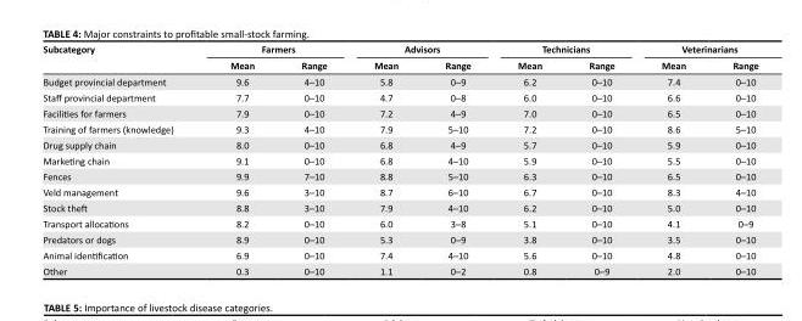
<table><thead><tr><td rowspan="2">Subcategory</td><td colspan="2">Farmers</td><td colspan="2">Advisors</td><td colspan="2">Technicians</td><td colspan="2">Veterinarians</td></tr><tr><td>Mean</td><td>Range</td><td>Mean</td><td>Range</td><td>Mean</td><td>Range</td><td>Mean</td><td>Range</td></tr></thead><tbody><tr><td>Budget provincial department</td><td>9.6</td><td>4–10</td><td>5.8</td><td>0–9</td><td>6.2</td><td>0–10</td><td>7.4</td><td>0–10</td></tr><tr><td>Staff provincial department</td><td>7.7</td><td>0–10</td><td>4.7</td><td>0–8</td><td>6.0</td><td>0–10</td><td>6.6</td><td>0–10</td></tr><tr><td>Facilities for farmers</td><td>7.9</td><td>0–10</td><td>7.2</td><td>4–9</td><td>7.0</td><td>0–10</td><td>6.5</td><td>0–10</td></tr><tr><td>Training of farmers (knowledge)</td><td>9.3</td><td>4–10</td><td>7.9</td><td>5–10</td><td>7.2</td><td>0–10</td><td>8.6</td><td>5–10</td></tr><tr><td>Drug supply chain</td><td>8.0</td><td>0–10</td><td>6.8</td><td>4–9</td><td>5.7</td><td>0–10</td><td>5.9</td><td>0–10</td></tr><tr><td>Marketing chain</td><td>9.1</td><td>0–10</td><td>6.8</td><td>4–10</td><td>5.9</td><td>0–10</td><td>5.5</td><td>0–10</td></tr><tr><td>Fences</td><td>9.9</td><td>7–10</td><td>8.8</td><td>5–10</td><td>6.3</td><td>0–10</td><td>6.5</td><td>0–10</td></tr><tr><td>Veld management</td><td>9.6</td><td>3–10</td><td>8.7</td><td>6–10</td><td>6.7</td><td>0–10</td><td>8.3</td><td>4–10</td></tr><tr><td>Stock theft</td><td>8.8</td><td>3–10</td><td>7.9</td><td>4–10</td><td>6.2</td><td>0–10</td><td>5.0</td><td>0–10</td></tr><tr><td>Transport allocations</td><td>8.2</td><td>0–10</td><td>6.0</td><td>3–8</td><td>5.1</td><td>0–10</td><td>4.1</td><td>0–9</td></tr><tr><td>Predators or dogs</td><td>8.9</td><td>0–10</td><td>5.3</td><td>0–9</td><td>3.8</td><td>0–10</td><td>3.5</td><td>0–10</td></tr><tr><td>Animal identification</td><td>6.9</td><td>0–10</td><td>7.4</td><td>4–10</td><td>5.6</td><td>0–10</td><td>4.8</td><td>0–10</td></tr><tr><td>Other</td><td>0.3</td><td>0–10</td><td>1.1</td><td>0–2</td><td>0.8</td><td>0–9</td><td>2.0</td><td>0–10</td></tr></tbody></table>